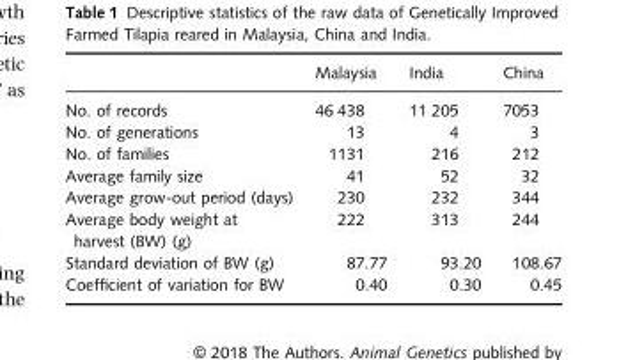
<table><thead><tr><td></td><td>Malaysia</td><td>India</td><td>China</td></tr></thead><tbody><tr><td>No. of records</td><td>46 438</td><td>11 205</td><td>7053</td></tr><tr><td>No. of generations</td><td>13</td><td>4</td><td>3</td></tr><tr><td>No. of families</td><td>1131</td><td>216</td><td>212</td></tr><tr><td>Average family size</td><td>41</td><td>52</td><td>32</td></tr><tr><td>Average grow-out period (days)</td><td>230</td><td>232</td><td>344</td></tr><tr><td>Average body weight at harvest (BW) (g)</td><td>222</td><td>313</td><td>244</td></tr><tr><td>Standard deviation of BW (g)</td><td>87.77</td><td>93.20</td><td>108.67</td></tr><tr><td>Coefficient of variation for BW</td><td>0.40</td><td>0.30</td><td>0.45</td></tr></tbody></table>